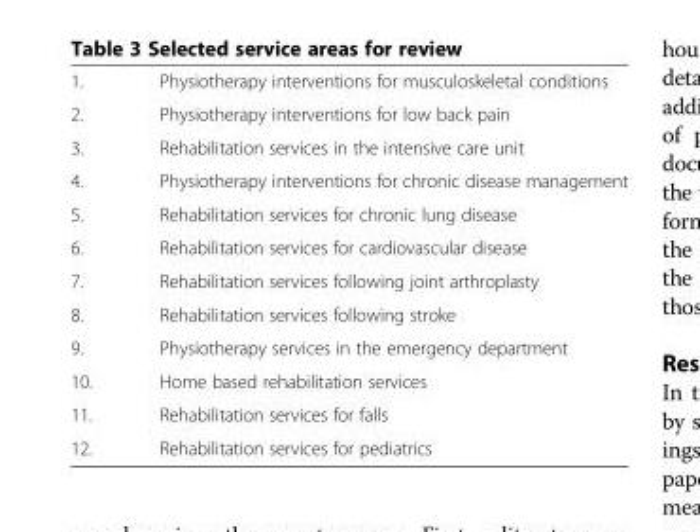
<table><tbody><tr><td>1.</td><td>Physiotherapy interventions for musculoskeletal conditions</td></tr><tr><td>2.</td><td>Physiotherapy interventions for low back pain</td></tr><tr><td>3.</td><td>Rehabilitation services in the intensive care unit</td></tr><tr><td>4.</td><td>Physiotherapy interventions for chronic disease management</td></tr><tr><td>5.</td><td>Rehabilitation services for chronic lung disease</td></tr><tr><td>6.</td><td>Rehabilitation services for cardiovascular disease</td></tr><tr><td>7.</td><td>Rehabilitation services following joint arthroplasty</td></tr><tr><td>8.</td><td>Rehabilitation services following stroke</td></tr><tr><td>9.</td><td>Physiotherapy services in the emergency department</td></tr><tr><td>10.</td><td>Home based rehabilitation services</td></tr><tr><td>11.</td><td>Rehabilitation services for falls</td></tr><tr><td>12.</td><td>Rehabilitation services for pediatrics</td></tr></tbody></table>